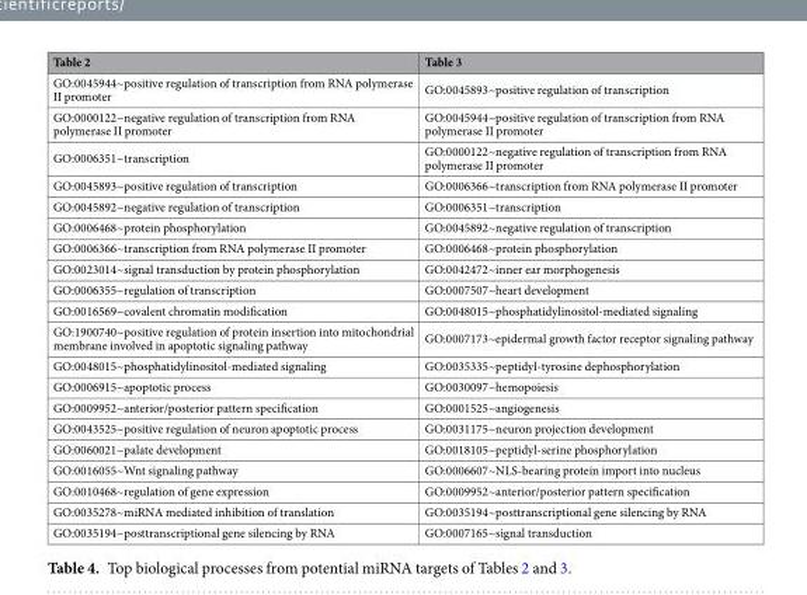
<table><thead><tr><td>Table 2</td><td>Table 3</td></tr></thead><tbody><tr><td>GO:0045944~positive regulation of transcription from RNA polymerase II promoter</td><td>GO:0045893~positive regulation of transcription</td></tr><tr><td>GO:0000122~negative regulation of transcription from RNA polymerase II promoter</td><td>GO:0045944~positive regulation of transcription from RNA polymerase II promoter</td></tr><tr><td>GO:0006351~transcription</td><td>GO:0000122~negative regulation of transcription from RNA polymerase II promoter</td></tr><tr><td>GO:0045893~positive regulation of transcription</td><td>GO:0006366~transcription from RNA polymerase II promoter</td></tr><tr><td>GO:0045892~negative regulation of transcription</td><td>GO:0006351~transcription</td></tr><tr><td>GO:0006468~protein phosphorylation</td><td>GO:0045892~negative regulation of transcription</td></tr><tr><td>GO:0006366~transcription from RNA polymerase II promoter</td><td>GO:0006468~protein phosphorylation</td></tr><tr><td>GO:0023014~signal transduction by protein phosphorylation</td><td>GO:0042472~inner ear morphogenesis</td></tr><tr><td>GO:0006355~regulation of transcription</td><td>GO:0007507~heart development</td></tr><tr><td>GO:0016569~covalent chromatin modification</td><td>GO:0048015~phosphatidylinositol-mediated signaling</td></tr><tr><td>GO:1900740~positive regulation of protein insertion into mitochondrial membrane involved in apoptotic signaling pathway</td><td>GO:0007173~epidermal growth factor receptor signaling pathway</td></tr><tr><td>GO:0048015~phosphatidylinositol-mediated signaling</td><td>GO:0035335~peptidyl-tyrosine dephosphorylation</td></tr><tr><td>GO:0006915~apoptotic process</td><td>GO:0030097~hemopoiesis</td></tr><tr><td>GO:0009952~anterior/posterior pattern specification</td><td>GO:0001525~angiogenesis</td></tr><tr><td>GO:0043525~positive regulation of neuron apoptotic process</td><td>GO:0031175~neuron projection development</td></tr><tr><td>GO:0060021~palate development</td><td>GO:0018105~peptidyl-serine phosphorylation</td></tr><tr><td>GO:0016055~Wnt signaling pathway</td><td>GO:0006607~NLS-bearing protein import into nucleus</td></tr><tr><td>GO:0010468~regulation of gene expression</td><td>GO:0009952~anterior/posterior pattern specification</td></tr><tr><td>GO:0035278~miRNA mediated inhibition of translation</td><td>GO:0035194~posttranscriptional gene silencing by RNA</td></tr><tr><td>GO:0035194~posttranscriptional gene silencing by RNA</td><td>GO:0007165~signal transduction</td></tr></tbody></table>